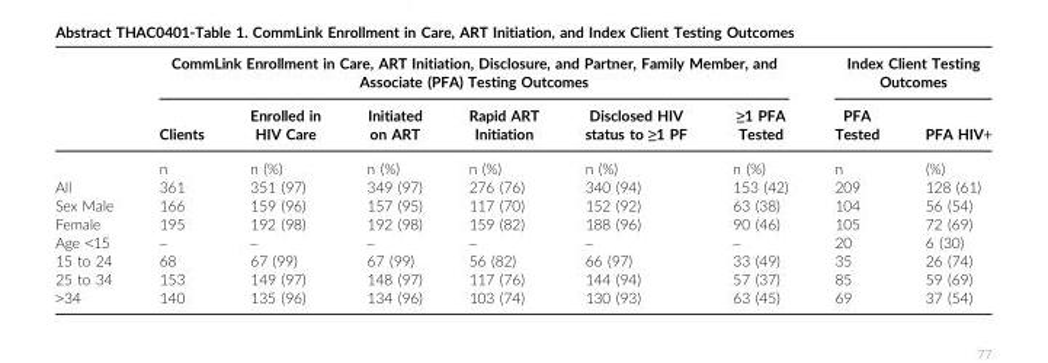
<table><thead><tr><td rowspan="2"></td><td colspan="6">CommLink Enrollment in Care, ART Initiation, Disclosure, and Partner, Family Member, and Associate (PFA) Testing Outcomes</td><td colspan="2">Index Client Testing Outcomes</td></tr><tr><td>Clients</td><td>Enrolled in HIV Care</td><td>Initiated on ART</td><td>Rapid ART Initiation</td><td>Disclosed HIV status to ≥1 PF</td><td>≥1 PFA Tested</td><td>PFA Tested</td><td>PFA HIV+</td></tr></thead><tbody><tr><td></td><td>n</td><td>n (%)</td><td>n (%)</td><td>n (%)</td><td>n (%)</td><td>n (%)</td><td>n</td><td>(%)</td></tr><tr><td>All</td><td>361</td><td>351 (97)</td><td>349 (97)</td><td>276 (76)</td><td>340 (94)</td><td>153 (42)</td><td>209</td><td>128 (61)</td></tr><tr><td>Sex Male</td><td>166</td><td>159 (96)</td><td>157 (95)</td><td>117 (70)</td><td>152 (92)</td><td>63 (38)</td><td>104</td><td>56 (54)</td></tr><tr><td>Female</td><td>195</td><td>192 (98)</td><td>192 (98)</td><td>159 (82)</td><td>188 (96)</td><td>90 (46)</td><td>105</td><td>72 (69)</td></tr><tr><td>Age &lt;15</td><td>–</td><td>–</td><td>–</td><td>–</td><td>–</td><td>–</td><td>20</td><td>6 (30)</td></tr><tr><td>15 to 24</td><td>68</td><td>67 (99)</td><td>67 (99)</td><td>56 (82)</td><td>66 (97)</td><td>33 (49)</td><td>35</td><td>26 (74)</td></tr><tr><td>25 to 34</td><td>153</td><td>149 (97)</td><td>148 (97)</td><td>117 (76)</td><td>144 (94)</td><td>57 (37)</td><td>85</td><td>59 (69)</td></tr><tr><td>&gt;34</td><td>140</td><td>135 (96)</td><td>134 (96)</td><td>103 (74)</td><td>130 (93)</td><td>63 (45)</td><td>69</td><td>37 (54)</td></tr></tbody></table>